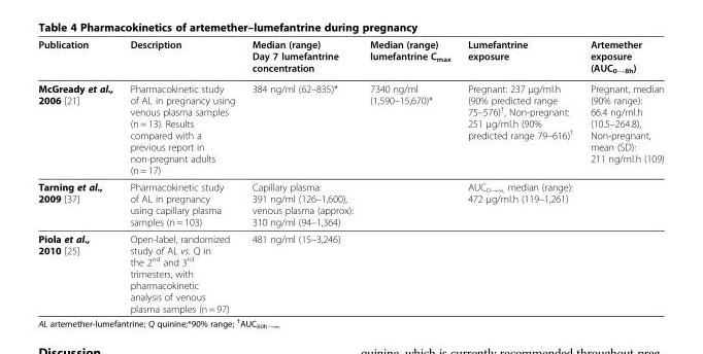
<table><thead><tr><td>Publication</td><td>Description</td><td>Median (range) Day 7 lumefantrine concentration</td><td>Median (range) lumefantrine C<sub>max</sub></td><td>Lumefantrine exposure</td><td>Artemether exposure (AUC<sub>0→8h</sub>)</td></tr></thead><tbody><tr><td>McGready et al., 2006 [21]</td><td>Pharmacokinetic study of AL in pregnancy using venous plasma samples (n = 13). Results compared with a previous report in non-pregnant adults (n = 17)</td><td>384 ng/ml (62–835)*</td><td>7340 ng/ml (1,590–15,670)*</td><td>Pregnant: 237 μg/ml.h (90% predicted range 75–576)<sup>†</sup>, Non-pregnant: 251 μg/ml.h (90% predicted range 79–616)<sup>†</sup></td><td>Pregnant, median (90% range): 66.4 ng/ml.h (10.5–264.8), Non-pregnant, mean (SD): 211 ng/ml.h (109)</td></tr><tr><td>Tarning et al., 2009 [37]</td><td>Pharmacokinetic study of AL in pregnancy using capillary plasma samples (n = 103)</td><td>Capillary plasma: 391 ng/ml (126–1,600), venous plasma (approx): 310 ng/ml (94–1,364)</td><td></td><td>AUC<sub>0→∞,</sub> median (range): 472 μg/ml.h (119–1,261)</td><td></td></tr><tr><td>Piola et al., 2010 [25]</td><td>Open-label, randomized study of AL vs. Q in the 2<sup>nd</sup> and 3<sup>rd</sup> trimesters, with pharmacokinetic analysis of venous plasma samples (n = 97)</td><td>481 ng/ml (15–3,246)</td><td></td><td></td><td></td></tr></tbody></table>